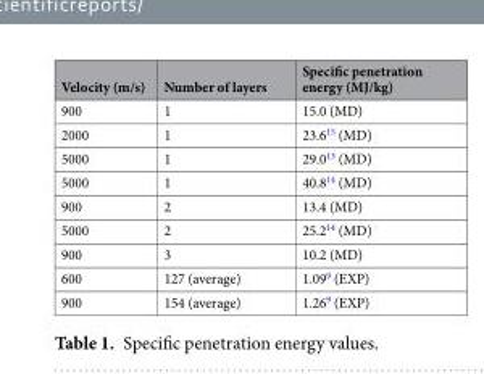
<table><thead><tr><td>Velocity (m/s)</td><td>Number of layers</td><td>Specific penetration energy (MJ/kg)</td></tr></thead><tbody><tr><td>900</td><td>1</td><td>15.0 (MD)</td></tr><tr><td>2000</td><td>1</td><td>23.6<sup>15</sup> (MD)</td></tr><tr><td>5000</td><td>1</td><td>29.0<sup>13</sup> (MD)</td></tr><tr><td>5000</td><td>1</td><td>40.8<sup>14</sup> (MD)</td></tr><tr><td>900</td><td>2</td><td>13.4 (MD)</td></tr><tr><td>5000</td><td>2</td><td>25.2<sup>14</sup> (MD)</td></tr><tr><td>900</td><td>3</td><td>10.2 (MD)</td></tr><tr><td>600</td><td>127 (average)</td><td>1.09<sup>9</sup> (EXP)</td></tr><tr><td>900</td><td>154 (average)</td><td>1.26<sup>9</sup> (EXP)</td></tr></tbody></table>